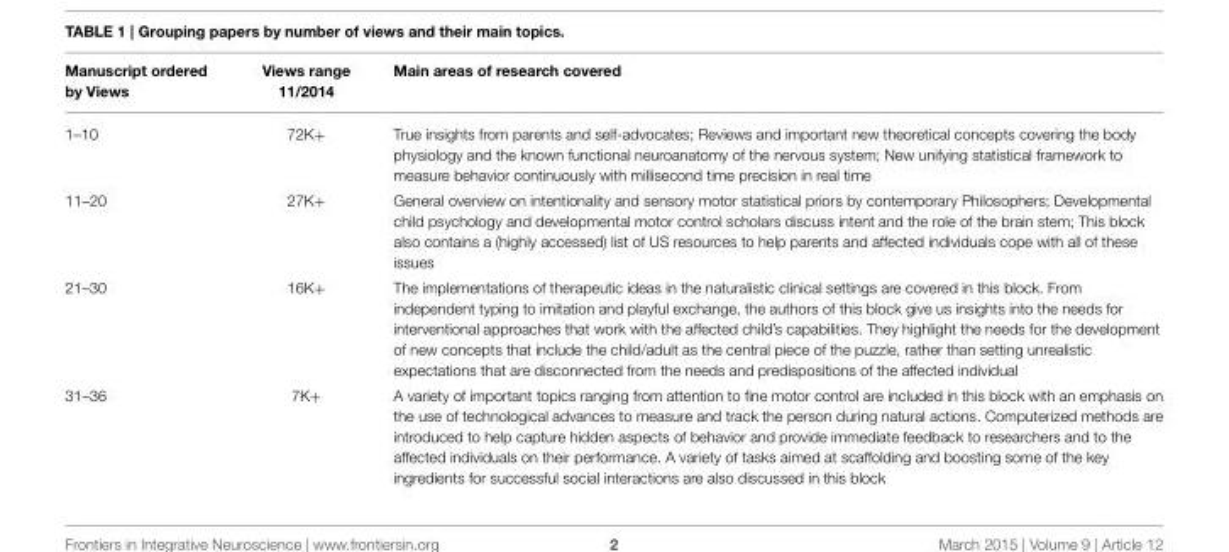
<table><thead><tr><td>Manuscript ordered by Views</td><td>Views range 11/2014</td><td>Main areas of research covered</td></tr></thead><tbody><tr><td>1–10</td><td>72K+</td><td>True insights from parents and self-advocates; Reviews and important new theoretical concepts covering the body physiology and the known functional neuroanatomy of the nervous system; New unifying statistical framework to measure behavior continuously with millisecond time precision in real time</td></tr><tr><td>11–20</td><td>27K+</td><td>General overview on intentionality and sensory motor statistical priors by contemporary Philosophers; Developmental child psychology and developmental motor control scholars discuss intent and the role of the brain stem; This block also contains a (highly accessed) list of US resources to help parents and affected individuals cope with all of these issues</td></tr><tr><td>21–30</td><td>16K+</td><td>The implementations of therapeutic ideas in the naturalistic clinical settings are covered in this block. From independent typing to imitation and playful exchange, the authors of this block give us insights into the needs for interventional approaches that work with the affected child’s capabilities. They highlight the needs for the development of new concepts that include the child/adult as the central piece of the puzzle, rather than setting unrealistic expectations that are disconnected from the needs and predispositions of the affected individual</td></tr><tr><td>31–36</td><td>7K+</td><td>A variety of important topics ranging from attention to fine motor control are included in this block with an emphasis on the use of technological advances to measure and track the person during natural actions. Computerized methods are introduced to help capture hidden aspects of behavior and provide immediate feedback to researchers and to the affected individuals on their performance. A variety of tasks aimed at scaffolding and boosting some of the key ingredients for successful social interactions are also discussed in this block</td></tr></tbody></table>